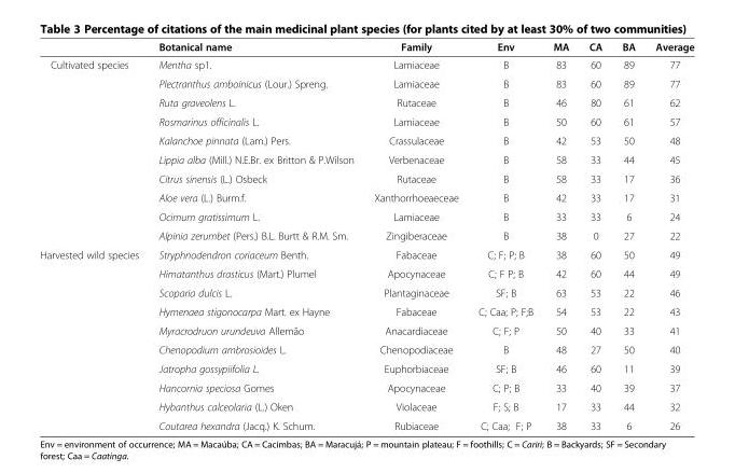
<table><thead><tr><td></td><td>Botanical name</td><td>Family</td><td>Env</td><td>MA</td><td>CA</td><td>BA</td><td>Average</td></tr></thead><tbody><tr><td rowspan="10">Cultivated species</td><td>Mentha sp1.</td><td>Lamiaceae</td><td>B</td><td>83</td><td>60</td><td>89</td><td>77</td></tr><tr><td>Plectranthus amboinicus (Lour.) Spreng.</td><td>Lamiaceae</td><td>B</td><td>83</td><td>60</td><td>89</td><td>77</td></tr><tr><td>Ruta graveolens L.</td><td>Rutaceae</td><td>B</td><td>46</td><td>80</td><td>61</td><td>62</td></tr><tr><td>Rosmarinus officinalis L.</td><td>Lamiaceae</td><td>B</td><td>50</td><td>60</td><td>61</td><td>57</td></tr><tr><td>Kalanchoe pinnata (Lam.) Pers.</td><td>Crassulaceae</td><td>B</td><td>42</td><td>53</td><td>50</td><td>48</td></tr><tr><td>Lippia alba (Mill.) N.E.Br. ex Britton &amp; P.Wilson</td><td>Verbenaceae</td><td>B</td><td>58</td><td>33</td><td>44</td><td>45</td></tr><tr><td>Citrus sinensis (L.) Osbeck</td><td>Rutaceae</td><td>B</td><td>58</td><td>33</td><td>17</td><td>36</td></tr><tr><td>Aloe vera (L.) Burm.f.</td><td>Xanthorrhoeaeceae</td><td>B</td><td>42</td><td>33</td><td>17</td><td>31</td></tr><tr><td>Ocimum gratissimum L.</td><td>Lamiaceae</td><td>B</td><td>33</td><td>33</td><td>6</td><td>24</td></tr><tr><td>Alpinia zerumbet (Pers.) B.L. Burtt &amp; R.M. Sm.</td><td>Zingiberaceae</td><td>B</td><td>38</td><td>0</td><td>27</td><td>22</td></tr><tr><td rowspan="10">Harvested wild species</td><td>Stryphnodendron coriaceum Benth.</td><td>Fabaceae</td><td>C; F; P; B</td><td>38</td><td>60</td><td>50</td><td>49</td></tr><tr><td>Himatanthus drasticus (Mart.) Plumel</td><td>Apocynaceae</td><td>C; F P; B</td><td>42</td><td>60</td><td>44</td><td>49</td></tr><tr><td>Scoparia dulcis L.</td><td>Plantaginaceae</td><td>SF; B</td><td>63</td><td>53</td><td>22</td><td>46</td></tr><tr><td>Hymenaea stigonocarpa Mart. ex Hayne</td><td>Fabaceae</td><td>C; Caa; P; F;B</td><td>54</td><td>53</td><td>22</td><td>43</td></tr><tr><td>Myracrodruon urundeuva Allemão</td><td>Anacardiaceae</td><td>C; F; P</td><td>50</td><td>40</td><td>33</td><td>41</td></tr><tr><td>Chenopodium ambrosioides L.</td><td>Chenopodiaceae</td><td>B</td><td>48</td><td>27</td><td>50</td><td>40</td></tr><tr><td>Jatropha gossypiifolia L.</td><td>Euphorbiaceae</td><td>SF; B</td><td>46</td><td>60</td><td>11</td><td>39</td></tr><tr><td>Hancornia speciosa Gomes</td><td>Apocynaceae</td><td>C; P; B</td><td>33</td><td>40</td><td>39</td><td>37</td></tr><tr><td>Hybanthus calceolaria (L.) Oken</td><td>Violaceae</td><td>F; S; B</td><td>17</td><td>33</td><td>44</td><td>32</td></tr><tr><td>Coutarea hexandra (Jacq.) K. Schum.</td><td>Rubiaceae</td><td>C; Caa; F; P</td><td>38</td><td>33</td><td>6</td><td>26</td></tr></tbody></table>